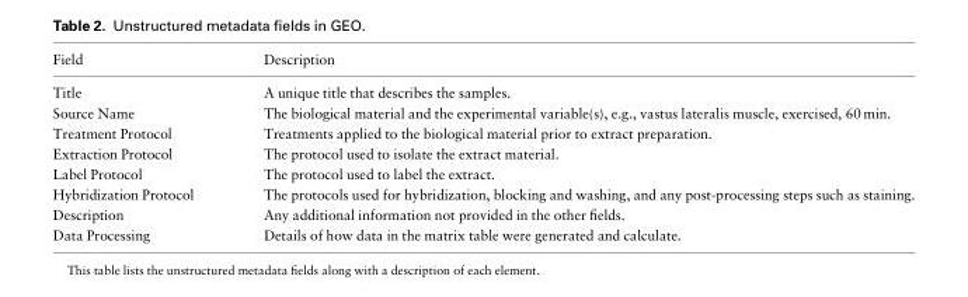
<table><thead><tr><td>Field</td><td>Description</td></tr></thead><tbody><tr><td>Title</td><td>A unique title that describes the samples.</td></tr><tr><td>Source Name</td><td>The biological material and the experimental variable(s), e.g., vastus lateralis muscle, exercised, 60 min.</td></tr><tr><td>Treatment Protocol</td><td>Treatments applied to the biological material prior to extract preparation.</td></tr><tr><td>Extraction Protocol</td><td>The protocol used to isolate the extract material.</td></tr><tr><td>Label Protocol</td><td>The protocol used to label the extract.</td></tr><tr><td>Hybridization Protocol</td><td>The protocols used for hybridization, blocking and washing, and any post-processing steps such as staining.</td></tr><tr><td>Description</td><td>Any additional information not provided in the other fields.</td></tr><tr><td>Data Processing</td><td>Details of how data in the matrix table were generated and calculate.</td></tr></tbody></table>